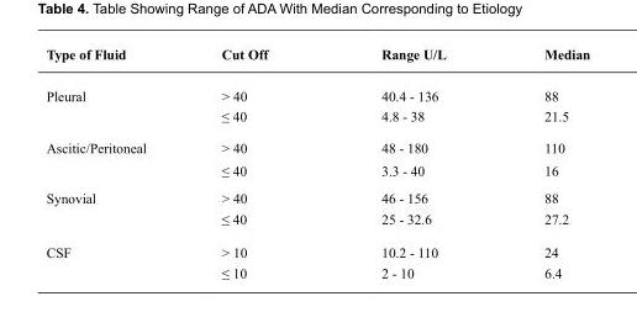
<table><thead><tr><td>Type of Fluid</td><td>Cut Off</td><td>Range U/L</td><td>Median</td></tr></thead><tbody><tr><td rowspan="2">Pleural</td><td>&gt; 40</td><td>40.4 - 136</td><td>88</td></tr><tr><td>≤ 40</td><td>4.8 - 38</td><td>21.5</td></tr><tr><td rowspan="2">Ascitic/Peritoneal</td><td>&gt; 40</td><td>48 - 180</td><td>110</td></tr><tr><td>≤ 40</td><td>3.3 - 40</td><td>16</td></tr><tr><td rowspan="2">Synovial</td><td>&gt; 40</td><td>46 - 156</td><td>88</td></tr><tr><td>≤ 40</td><td>25 - 32.6</td><td>27.2</td></tr><tr><td rowspan="2">CSF</td><td>&gt; 10</td><td>10.2 - 110</td><td>24</td></tr><tr><td>≤ 10</td><td>2 - 10</td><td>6.4</td></tr></tbody></table>